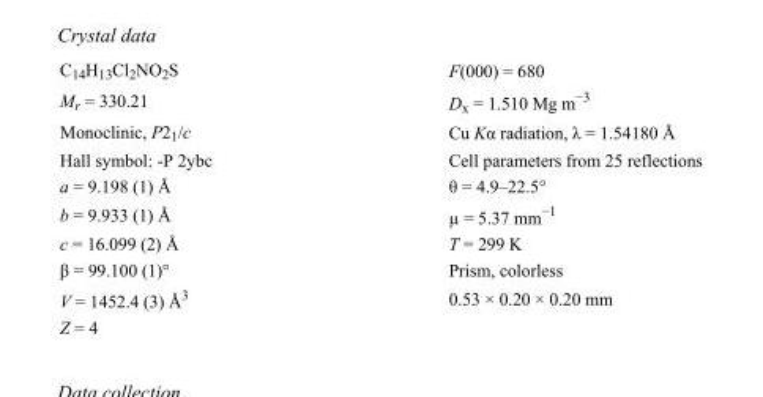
<table><tbody><tr><td>C<sub>14</sub>H<sub>13</sub>Cl<sub>2</sub>NO<sub>2</sub>S</td><td>F(000) = 680</td></tr><tr><td>M<sub>r</sub> = 330.21</td><td>D<sub>x</sub> = 1.510 Mg m<sup>−3</sup></td></tr><tr><td>Monoclinic, P2<sub>1</sub>/c</td><td>Cu Kα radiation, λ = 1.54180 Å</td></tr><tr><td>Hall symbol: -P 2ybc</td><td>Cell parameters from 25 reflections</td></tr><tr><td>a = 9.198 (1) Å</td><td>θ = 4.9–22.5°</td></tr><tr><td>b = 9.933 (1) Å</td><td>µ = 5.37 mm<sup>−1</sup></td></tr><tr><td>c = 16.099 (2) Å</td><td>T = 299 K</td></tr><tr><td>β = 99.100 (1)°</td><td>Prism, colorless</td></tr><tr><td>V = 1452.4 (3) Å<sup>3</sup></td><td>0.53 × 0.20 × 0.20 mm</td></tr><tr><td>Z = 4</td><td></td></tr></tbody></table>